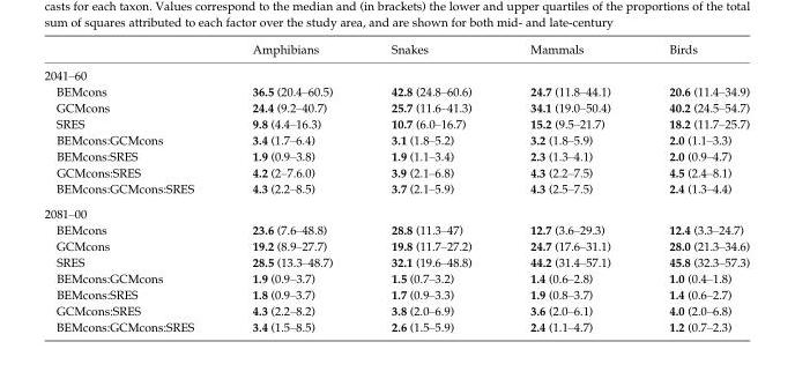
<table><thead><tr><td></td><td>Amphibians</td><td>Snakes</td><td>Mammals</td><td>Birds</td></tr></thead><tbody><tr><td colspan="5">2041–60</td></tr><tr><td>BEMcons</td><td>36.5 (20.4–60.5)</td><td>42.8 (24.8–60.6)</td><td>24.7 (11.8–44.1)</td><td>20.6 (11.4–34.9)</td></tr><tr><td>GCMcons</td><td>24.4 (9.2–40.7)</td><td>25.7 (11.6–41.3)</td><td>34.1 (19.0–50.4)</td><td>40.2 (24.5–54.7)</td></tr><tr><td>SRES</td><td>9.8 (4.4–16.3)</td><td>10.7 (6.0–16.7)</td><td>15.2 (9.5–21.7)</td><td>18.2 (11.7–25.7)</td></tr><tr><td>BEMcons:GCMcons</td><td>3.4 (1.7–6.4)</td><td>3.1 (1.8–5.2)</td><td>3.2 (1.8–5.9)</td><td>2.0 (1.1–3.3)</td></tr><tr><td>BEMcons:SRES</td><td>1.9 (0.9–3.8)</td><td>1.9 (1.1–3.4)</td><td>2.3 (1.3–4.1)</td><td>2.0 (0.9–4.7)</td></tr><tr><td>GCMcons:SRES</td><td>4.2 (2–7.6.0)</td><td>3.9 (2.1–6.8)</td><td>4.3 (2.2–7.5)</td><td>4.5 (2.4–8.1)</td></tr><tr><td>BEMcons:GCMcons:SRES</td><td>4.3 (2.2–8.5)</td><td>3.7 (2.1–5.9)</td><td>4.3 (2.5–7.5)</td><td>2.4 (1.3–4.4)</td></tr><tr><td colspan="5">2081–00</td></tr><tr><td>BEMcons</td><td>23.6 (7.6–48.8)</td><td>28.8 (11.3–47)</td><td>12.7 (3.6–29.3)</td><td>12.4 (3.3–24.7)</td></tr><tr><td>GCMcons</td><td>19.2 (8.9–27.7)</td><td>19.8 (11.7–27.2)</td><td>24.7 (17.6–31.1)</td><td>28.0 (21.3–34.6)</td></tr><tr><td>SRES</td><td>28.5 (13.3–48.7)</td><td>32.1 (19.6–48.8)</td><td>44.2 (31.4–57.1)</td><td>45.8 (32.3–57.3)</td></tr><tr><td>BEMcons:GCMcons</td><td>1.9 (0.9–3.7)</td><td>1.5 (0.7–3.2)</td><td>1.4 (0.6–2.8)</td><td>1.0 (0.4–1.8)</td></tr><tr><td>BEMcons:SRES</td><td>1.8 (0.9–3.7)</td><td>1.7 (0.9–3.3)</td><td>1.9 (0.8–3.7)</td><td>1.4 (0.6–2.7)</td></tr><tr><td>GCMcons:SRES</td><td>4.3 (2.2–8.2)</td><td>3.8 (2.0–6.9)</td><td>3.6 (2.0–6.1)</td><td>4.0 (2.0–6.8)</td></tr><tr><td>BEMcons:GCMcons:SRES</td><td>3.4 (1.5–8.5)</td><td>2.6 (1.5–5.9)</td><td>2.4 (1.1–4.7)</td><td>1.2 (0.7–2.3)</td></tr></tbody></table>